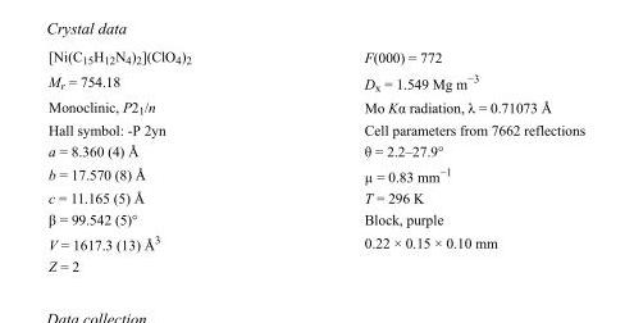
<table><tbody><tr><td>[Ni(C<sub>15</sub>H<sub>12</sub>N<sub>4</sub>)<sub>2</sub>](ClO<sub>4</sub>)<sub>2</sub></td><td>F(000) = 772</td></tr><tr><td>M<sub>r</sub> = 754.18</td><td>D<sub>x</sub> = 1.549 Mg m<sup>−3</sup></td></tr><tr><td>Monoclinic, P2<sub>1</sub>/n</td><td>Mo Kα radiation, λ = 0.71073 Å</td></tr><tr><td>Hall symbol: -P 2yn</td><td>Cell parameters from 7662 reflections</td></tr><tr><td>a = 8.360 (4) Å</td><td>θ = 2.2–27.9°</td></tr><tr><td>b = 17.570 (8) Å</td><td>µ = 0.83 mm<sup>−1</sup></td></tr><tr><td>c = 11.165 (5) Å</td><td>T = 296 K</td></tr><tr><td>β = 99.542 (5)°</td><td>Block, purple</td></tr><tr><td>V = 1617.3 (13) Å<sup>3</sup></td><td>0.22 × 0.15 × 0.10 mm</td></tr><tr><td>Z = 2</td><td></td></tr></tbody></table>